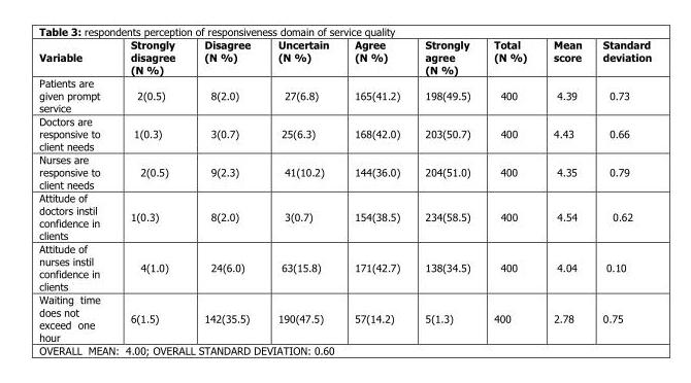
<table><thead><tr><td>Variable</td><td>Strongly disagree (N %)</td><td>Disagree (N %)</td><td>Uncertain (N %)</td><td>Agree (N %)</td><td>Strongly agree (N %)</td><td>Total (N %)</td><td>Mean score</td><td>Standard deviation</td></tr></thead><tbody><tr><td>Patients are given prompt service</td><td>2(0.5)</td><td>8(2.0)</td><td>27(6.8)</td><td>165(41.2)</td><td>198(49.5)</td><td>400</td><td>4.39</td><td>0.73</td></tr><tr><td>Doctors are responsive to client needs</td><td>1(0.3)</td><td>3(0.7)</td><td>25(6.3)</td><td>168(42.0)</td><td>203(50.7)</td><td>400</td><td>4.43</td><td>0.66</td></tr><tr><td>Nurses are responsive to client needs</td><td>2(0.5)</td><td>9(2.3)</td><td>41(10.2)</td><td>144(36.0)</td><td>204(51.0)</td><td>400</td><td>4.35</td><td>0.79</td></tr><tr><td>Attitude of doctors instil confidence in clients</td><td>1(0.3)</td><td>8(2.0)</td><td>3(0.7)</td><td>154(38.5)</td><td>234(58.5)</td><td>400</td><td>4.54</td><td>0.62</td></tr><tr><td>Attitude of nurses instil confidence in clients</td><td>4(1.0)</td><td>24(6.0)</td><td>63(15.8)</td><td>171(42.7)</td><td>138(34.5)</td><td>400</td><td>4.04</td><td>0.10</td></tr><tr><td>Waiting time does not exceed one hour</td><td>6(1.5)</td><td>142(35.5)</td><td>190(47.5)</td><td>57(14.2)</td><td>5(1.3)</td><td>400</td><td>2.78</td><td>0.75</td></tr></tbody></table>